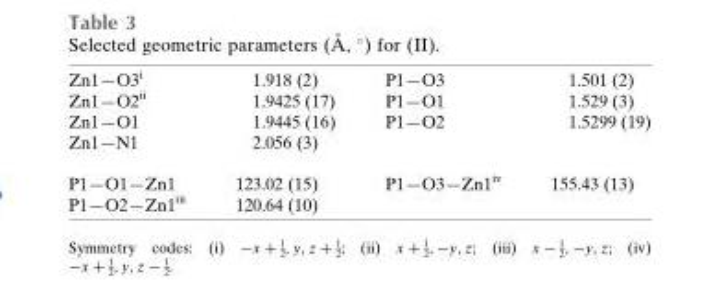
<table><tbody><tr><td>Zn1—O3<sup>i</sup></td><td>1.918 (2)</td><td>P1—O3</td><td>1.501 (2)</td></tr><tr><td>Zn1—O2<sup>ii</sup></td><td>1.9425 (17)</td><td>P1—O1</td><td>1.529 (3)</td></tr><tr><td>Zn1—O1</td><td>1.9445 (16)</td><td>P1—O2</td><td>1.5299 (19)</td></tr><tr><td>Zn1—N1</td><td>2.056 (3)</td><td></td><td></td></tr><tr><td>P1—O1—Zn1</td><td>123.02 (15)</td><td>P1—O3—Zn1<sup>iv</sup></td><td>155.43 (13)</td></tr><tr><td>P1—O2—Zn1<sup>iii</sup></td><td>120.64 (10)</td><td></td><td></td></tr></tbody></table>